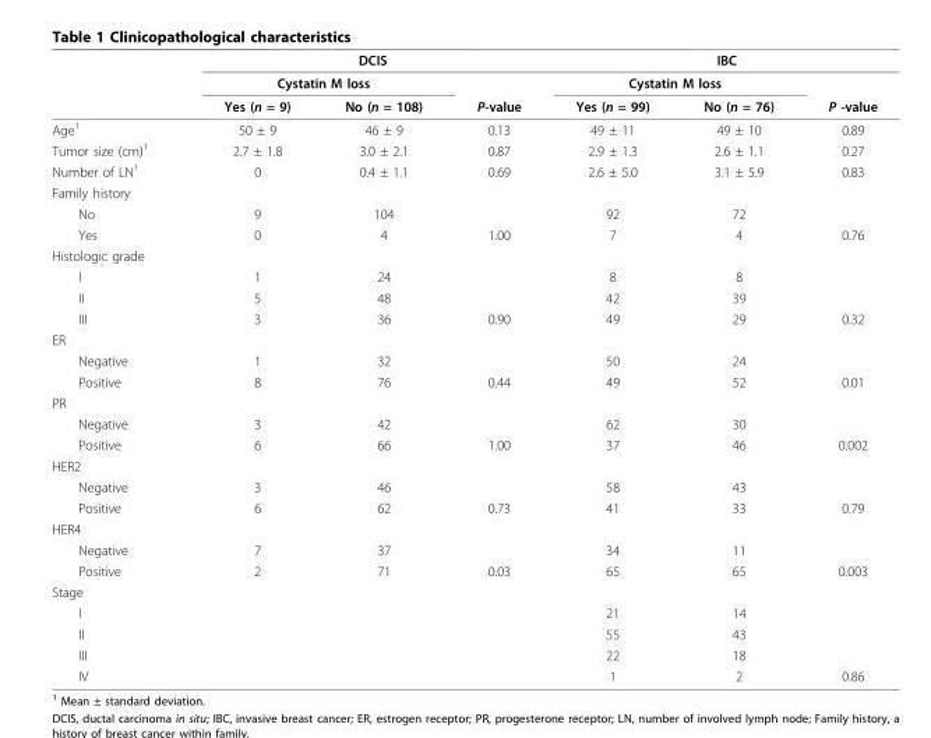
<table><thead><tr><td rowspan="3"></td><td colspan="3">DCIS</td><td colspan="3">IBC</td></tr><tr><td colspan="2">Cystatin M loss</td><td rowspan="2">P-value</td><td colspan="2">Cystatin M loss</td><td rowspan="2">P -value</td></tr><tr><td>Yes (n = 9)</td><td>No (n = 108)</td><td>Yes (n = 99)</td><td>No (n = 76)</td></tr></thead><tbody><tr><td>Age<sup>1</sup></td><td>50 ± 9</td><td>46 ± 9</td><td>0.13</td><td>49 ± 11</td><td>49 ± 10</td><td>0.89</td></tr><tr><td>Tumor size (cm)<sup>1</sup></td><td>2.7 ± 1.8</td><td>3.0 ± 2.1</td><td>0.87</td><td>2.9 ± 1.3</td><td>2.6 ± 1.1</td><td>0.27</td></tr><tr><td>Number of LN<sup>1</sup></td><td>0</td><td>0.4 ± 1.1</td><td>0.69</td><td>2.6 ± 5.0</td><td>3.1 ± 5.9</td><td>0.83</td></tr><tr><td colspan="7">Family history</td></tr><tr><td>No</td><td>9</td><td>104</td><td></td><td>92</td><td>72</td><td></td></tr><tr><td>Yes</td><td>0</td><td>4</td><td>1.00</td><td>7</td><td>4</td><td>0.76</td></tr><tr><td colspan="7">Histologic grade</td></tr><tr><td>I</td><td>1</td><td>24</td><td></td><td>8</td><td>8</td><td></td></tr><tr><td>II</td><td>5</td><td>48</td><td></td><td>42</td><td>39</td><td></td></tr><tr><td>III</td><td>3</td><td>36</td><td>0.90</td><td>49</td><td>29</td><td>0.32</td></tr><tr><td colspan="7">ER</td></tr><tr><td>Negative</td><td>1</td><td>32</td><td></td><td>50</td><td>24</td><td></td></tr><tr><td>Positive</td><td>8</td><td>76</td><td>0.44</td><td>49</td><td>52</td><td>0.01</td></tr><tr><td colspan="7">PR</td></tr><tr><td>Negative</td><td>3</td><td>42</td><td></td><td>62</td><td>30</td><td></td></tr><tr><td>Positive</td><td>6</td><td>66</td><td>1.00</td><td>37</td><td>46</td><td>0.002</td></tr><tr><td colspan="7">HER2</td></tr><tr><td>Negative</td><td>3</td><td>46</td><td></td><td>58</td><td>43</td><td></td></tr><tr><td>Positive</td><td>6</td><td>62</td><td>0.73</td><td>41</td><td>33</td><td>0.79</td></tr><tr><td colspan="7">HER4</td></tr><tr><td>Negative</td><td>7</td><td>37</td><td></td><td>34</td><td>11</td><td></td></tr><tr><td>Positive</td><td>2</td><td>71</td><td>0.03</td><td>65</td><td>65</td><td>0.003</td></tr><tr><td colspan="7">Stage</td></tr><tr><td>I</td><td></td><td></td><td></td><td>21</td><td>14</td><td></td></tr><tr><td>II</td><td></td><td></td><td></td><td>55</td><td>43</td><td></td></tr><tr><td>III</td><td></td><td></td><td></td><td>22</td><td>18</td><td></td></tr><tr><td>IV</td><td></td><td></td><td></td><td>1</td><td>2</td><td>0.86</td></tr></tbody></table>